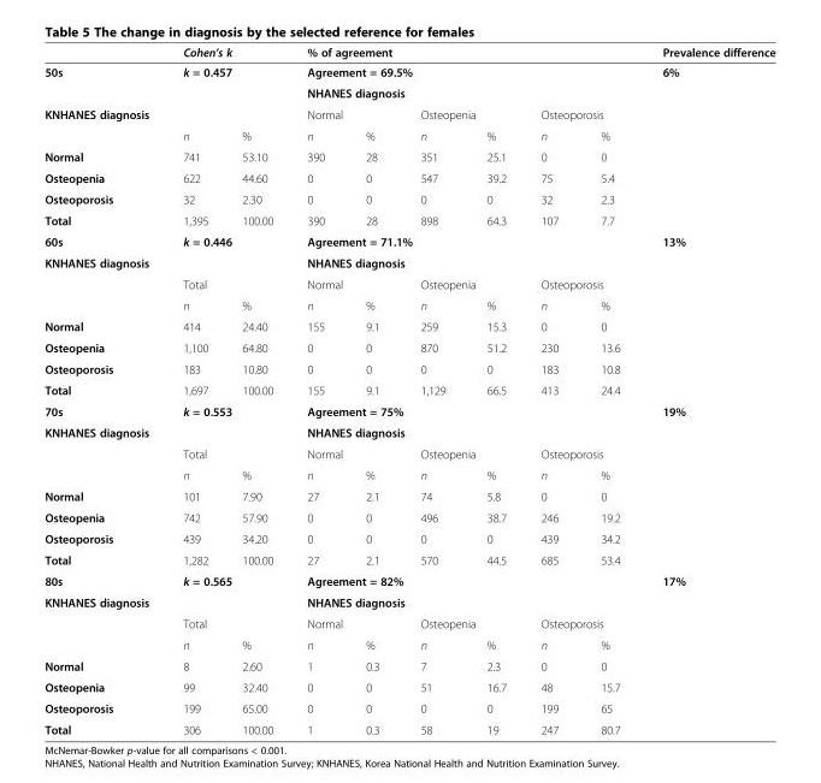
<table><thead><tr><td></td><td colspan="2">Cohen’s k</td><td colspan="6">% of agreement</td><td>Prevalence difference</td></tr></thead><tbody><tr><td rowspan="2">50s</td><td colspan="2">k = 0.457</td><td colspan="6">Agreement = 69.5%</td><td>6%</td></tr><tr><td></td><td></td><td colspan="6">NHANES diagnosis</td><td></td></tr><tr><td rowspan="2">KNHANES diagnosis</td><td></td><td></td><td colspan="2">Normal</td><td colspan="2">Osteopenia</td><td colspan="2">Osteoporosis</td><td></td></tr><tr><td>n</td><td>%</td><td>n</td><td>%</td><td>n</td><td>%</td><td>n</td><td>%</td><td></td></tr><tr><td>Normal</td><td>741</td><td>53.10</td><td>390</td><td>28</td><td>351</td><td>25.1</td><td>0</td><td>0</td><td></td></tr><tr><td>Osteopenia</td><td>622</td><td>44.60</td><td>0</td><td>0</td><td>547</td><td>39.2</td><td>75</td><td>5.4</td><td></td></tr><tr><td>Osteoporosis</td><td>32</td><td>2.30</td><td>0</td><td>0</td><td>0</td><td>0</td><td>32</td><td>2.3</td><td></td></tr><tr><td>Total</td><td>1,395</td><td>100.00</td><td>390</td><td>28</td><td>898</td><td>64.3</td><td>107</td><td>7.7</td><td></td></tr><tr><td>60s</td><td colspan="2">k = 0.446</td><td colspan="6">Agreement = 71.1%</td><td>13%</td></tr><tr><td colspan="3">KNHANES diagnosis</td><td colspan="6">NHANES diagnosis</td><td></td></tr><tr><td></td><td colspan="2">Total</td><td colspan="2">Normal</td><td colspan="2">Osteopenia</td><td colspan="2">Osteoporosis</td><td></td></tr><tr><td></td><td>n</td><td>%</td><td>n</td><td>%</td><td>n</td><td>%</td><td>n</td><td>%</td><td></td></tr><tr><td>Normal</td><td>414</td><td>24.40</td><td>155</td><td>9.1</td><td>259</td><td>15.3</td><td>0</td><td>0</td><td></td></tr><tr><td>Osteopenia</td><td>1,100</td><td>64.80</td><td>0</td><td>0</td><td>870</td><td>51.2</td><td>230</td><td>13.6</td><td></td></tr><tr><td>Osteoporosis</td><td>183</td><td>10.80</td><td>0</td><td>0</td><td>0</td><td>0</td><td>183</td><td>10.8</td><td></td></tr><tr><td>Total</td><td>1,697</td><td>100.00</td><td>155</td><td>9.1</td><td>1,129</td><td>66.5</td><td>413</td><td>24.4</td><td></td></tr><tr><td>70s</td><td colspan="2">k = 0.553</td><td colspan="3">Agreement = 75%</td><td></td><td></td><td></td><td>19%</td></tr><tr><td colspan="3">KNHANES diagnosis</td><td colspan="5">NHANES diagnosis</td><td></td><td></td></tr><tr><td></td><td>Total</td><td></td><td colspan="2">Normal</td><td colspan="2">Osteopenia</td><td colspan="2">Osteoporosis</td><td></td></tr><tr><td></td><td>n</td><td>%</td><td>n</td><td>%</td><td>n</td><td>%</td><td>n</td><td>%</td><td></td></tr><tr><td>Normal</td><td>101</td><td>7.90</td><td>27</td><td>2.1</td><td>74</td><td>5.8</td><td>0</td><td>0</td><td></td></tr><tr><td>Osteopenia</td><td>742</td><td>57.90</td><td>0</td><td>0</td><td>496</td><td>38.7</td><td>246</td><td>19.2</td><td></td></tr><tr><td>Osteoporosis</td><td>439</td><td>34.20</td><td>0</td><td>0</td><td>0</td><td>0</td><td>439</td><td>34.2</td><td></td></tr><tr><td>Total</td><td>1,282</td><td>100.00</td><td>27</td><td>2.1</td><td>570</td><td>44.5</td><td>685</td><td>53.4</td><td></td></tr><tr><td>80s</td><td colspan="2">k = 0.565</td><td colspan="6">Agreement = 82%</td><td>17%</td></tr><tr><td colspan="3">KNHANES diagnosis</td><td colspan="6">NHANES diagnosis</td><td></td></tr><tr><td></td><td>Total</td><td></td><td colspan="2">Normal</td><td colspan="2">Osteopenia</td><td colspan="2">Osteoporosis</td><td></td></tr><tr><td></td><td>n</td><td>%</td><td>n</td><td>%</td><td>n</td><td>%</td><td>n</td><td>%</td><td></td></tr><tr><td>Normal</td><td>8</td><td>2.60</td><td>1</td><td>0.3</td><td>7</td><td>2.3</td><td>0</td><td>0</td><td></td></tr><tr><td>Osteopenia</td><td>99</td><td>32.40</td><td>0</td><td>0</td><td>51</td><td>16.7</td><td>48</td><td>15.7</td><td></td></tr><tr><td>Osteoporosis</td><td>199</td><td>65.00</td><td>0</td><td>0</td><td>0</td><td>0</td><td>199</td><td>65</td><td></td></tr><tr><td>Total</td><td>306</td><td>100.00</td><td>1</td><td>0.3</td><td>58</td><td>19</td><td>247</td><td>80.7</td><td></td></tr></tbody></table>